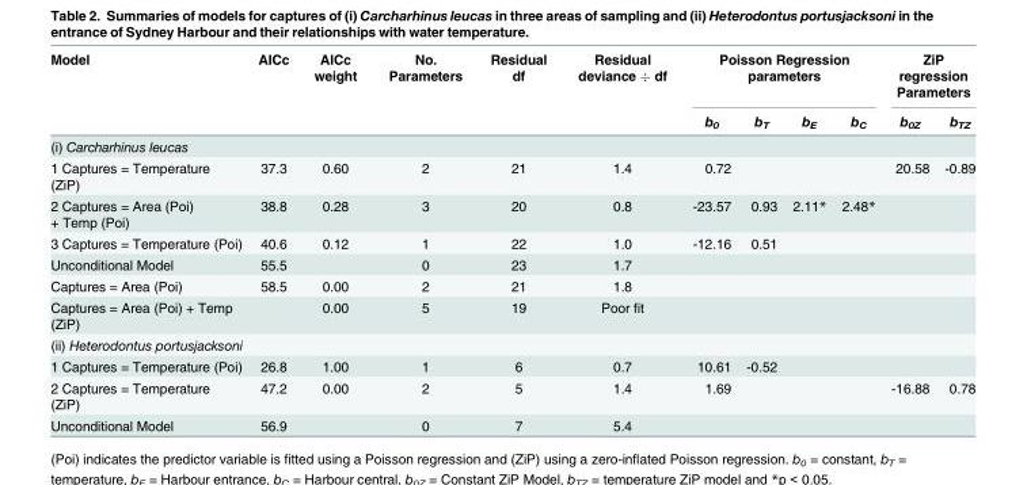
<table><thead><tr><td rowspan="2">Model</td><td rowspan="2">AICc</td><td rowspan="2">AICc weight</td><td rowspan="2">No. Parameters</td><td rowspan="2">Residual df</td><td rowspan="2">Residual deviance ÷ df</td><td colspan="4">Poisson Regression parameters</td><td colspan="2">ZiP regression Parameters</td></tr><tr><td>b<sub>0</sub></td><td>b<sub>T</sub></td><td>b<sub>E</sub></td><td>b<sub>C</sub></td><td>b<sub>0Z</sub></td><td>b<sub>TZ</sub></td></tr></thead><tbody><tr><td colspan="12">(i) Carcharhinus leucas</td></tr><tr><td>1 Captures = Temperature (ZiP)</td><td>37.3</td><td>0.60</td><td>2</td><td>21</td><td>1.4</td><td>0.72</td><td></td><td></td><td></td><td>20.58</td><td>-0.89</td></tr><tr><td>2 Captures = Area (Poi) + Temp (Poi)</td><td>38.8</td><td>0.28</td><td>3</td><td>20</td><td>0.8</td><td>-23.57</td><td>0.93</td><td>2.11*</td><td>2.48*</td><td></td><td></td></tr><tr><td>3 Captures = Temperature (Poi)</td><td>40.6</td><td>0.12</td><td>1</td><td>22</td><td>1.0</td><td>-12.16</td><td>0.51</td><td></td><td></td><td></td><td></td></tr><tr><td>Unconditional Model</td><td>55.5</td><td></td><td>0</td><td>23</td><td>1.7</td><td></td><td></td><td></td><td></td><td></td><td></td></tr><tr><td>Captures = Area (Poi)</td><td>58.5</td><td>0.00</td><td>2</td><td>21</td><td>1.8</td><td></td><td></td><td></td><td></td><td></td><td></td></tr><tr><td>Captures = Area (Poi) + Temp (ZiP)</td><td></td><td>0.00</td><td>5</td><td>19</td><td>Poor fit</td><td></td><td></td><td></td><td></td><td></td><td></td></tr><tr><td colspan="12">(ii) Heterodontus portusjacksoni</td></tr><tr><td>1 Captures = Temperature (Poi)</td><td>26.8</td><td>1.00</td><td>1</td><td>6</td><td>0.7</td><td>10.61</td><td>-0.52</td><td></td><td></td><td></td><td></td></tr><tr><td>2 Captures = Temperature (ZiP)</td><td>47.2</td><td>0.00</td><td>2</td><td>5</td><td>1.4</td><td>1.69</td><td></td><td></td><td></td><td>-16.88</td><td>0.78</td></tr><tr><td>Unconditional Model</td><td>56.9</td><td></td><td>0</td><td>7</td><td>5.4</td><td></td><td></td><td></td><td></td><td></td><td></td></tr></tbody></table>